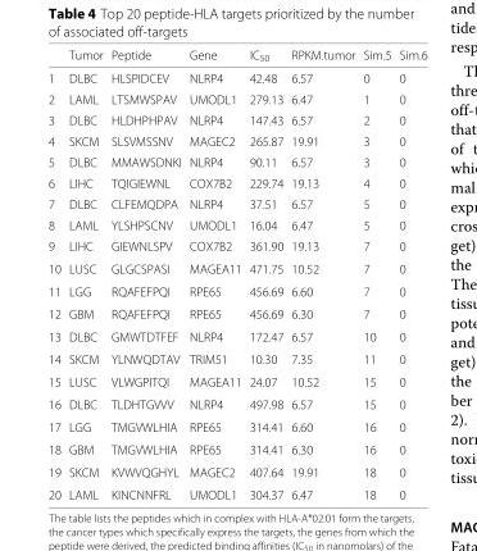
<table><thead><tr><td></td><td>Tumor</td><td>Peptide</td><td>Gene</td><td>IC<sub>50</sub></td><td>RPKM.tumor</td><td>Sim.5</td><td>Sim.6</td></tr></thead><tbody><tr><td>1</td><td>DLBC</td><td>HLSPIDCEV</td><td>NLRP4</td><td>42.48</td><td>6.57</td><td>0</td><td>0</td></tr><tr><td>2</td><td>LAML</td><td>LTSMWSPAV</td><td>UMODL1</td><td>279.13</td><td>6.47</td><td>1</td><td>0</td></tr><tr><td>3</td><td>DLBC</td><td>HLDHPHPAV</td><td>NLRP4</td><td>147.43</td><td>6.57</td><td>2</td><td>0</td></tr><tr><td>4</td><td>SKCM</td><td>SLSVMSSNV</td><td>MAGEC2</td><td>265.87</td><td>19.91</td><td>3</td><td>0</td></tr><tr><td>5</td><td>DLBC</td><td>MMAWSDNKI</td><td>NLRP4</td><td>90.11</td><td>6.57</td><td>3</td><td>0</td></tr><tr><td>6</td><td>LIHC</td><td>TQIGIEWNL</td><td>COX7B2</td><td>229.74</td><td>19.13</td><td>4</td><td>0</td></tr><tr><td>7</td><td>DLBC</td><td>CLFEMQDPA</td><td>NLRP4</td><td>37.51</td><td>6.57</td><td>5</td><td>0</td></tr><tr><td>8</td><td>LAML</td><td>YLSHPSCNV</td><td>UMODL1</td><td>16.04</td><td>6.47</td><td>5</td><td>0</td></tr><tr><td>9</td><td>LIHC</td><td>GIEWNLSPV</td><td>COX7B2</td><td>361.90</td><td>19.13</td><td>7</td><td>0</td></tr><tr><td>10</td><td>LUSC</td><td>GLGCSPASI</td><td>MAGEA11</td><td>471.75</td><td>10.52</td><td>7</td><td>0</td></tr><tr><td>11</td><td>LGG</td><td>RQAFEFPQI</td><td>RPE65</td><td>456.69</td><td>6.60</td><td>7</td><td>0</td></tr><tr><td>12</td><td>GBM</td><td>RQAFEFPQI</td><td>RPE65</td><td>456.69</td><td>6.30</td><td>7</td><td>0</td></tr><tr><td>13</td><td>DLBC</td><td>GMWTDTFEF</td><td>NLRP4</td><td>172.47</td><td>6.57</td><td>10</td><td>0</td></tr><tr><td>14</td><td>SKCM</td><td>YLNWQDTAV</td><td>TRIM51</td><td>10.30</td><td>7.35</td><td>11</td><td>0</td></tr><tr><td>15</td><td>LUSC</td><td>VLWGPITQI</td><td>MAGEA11</td><td>24.07</td><td>10.52</td><td>15</td><td>0</td></tr><tr><td>16</td><td>DLBC</td><td>TLDHTGVVV</td><td>NLRP4</td><td>497.98</td><td>6.57</td><td>15</td><td>0</td></tr><tr><td>17</td><td>LGG</td><td>TMGVWLHIA</td><td>RPE65</td><td>314.41</td><td>6.60</td><td>16</td><td>0</td></tr><tr><td>18</td><td>GBM</td><td>TMGVWLHIA</td><td>RPE65</td><td>314.41</td><td>6.30</td><td>16</td><td>0</td></tr><tr><td>19</td><td>SKCM</td><td>KVWVQGHYL</td><td>MAGEC2</td><td>407.64</td><td>19.91</td><td>18</td><td>0</td></tr><tr><td>20</td><td>LAML</td><td>KINCNNFRL</td><td>UMODL1</td><td>304.37</td><td>6.47</td><td>18</td><td>0</td></tr></tbody></table>